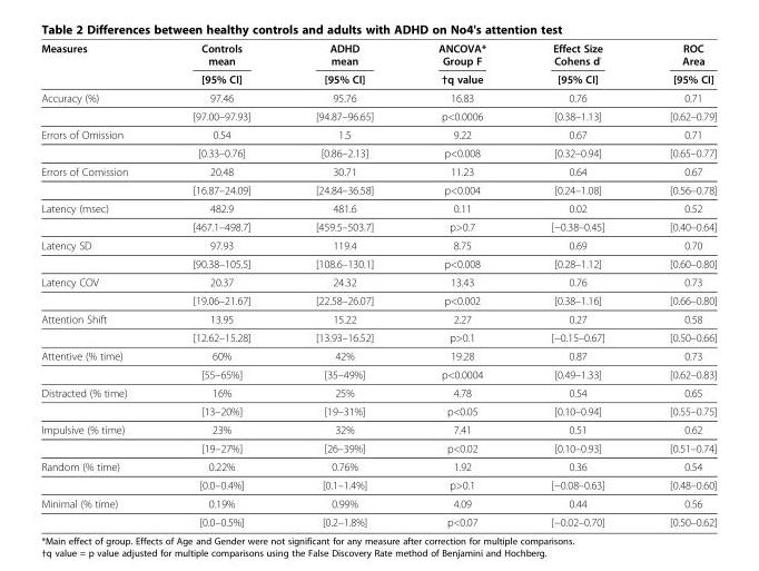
<table><thead><tr><td rowspan="2">Measures</td><td rowspan="2">Controls mean [95% CI]</td><td rowspan="2">ADHD mean [95% CI]</td><td rowspan="2">ANCOVA* Group F †q value</td><td rowspan="2">Effect Size Cohens d&#x27; [95% CI]</td><td rowspan="2">ROC Area [95% CI]</td></tr><tr></tr></thead><tbody><tr><td rowspan="2">Accuracy (%)</td><td>97.46</td><td>95.76</td><td>16.83</td><td>0.76</td><td>0.71</td></tr><tr><td>[97.00–97.93]</td><td>[94.87–96.65]</td><td>p&lt;0.0006</td><td>[0.38–1.13]</td><td>[0.62–0.79]</td></tr><tr><td rowspan="2">Errors of Omission</td><td>0.54</td><td>1.5</td><td>9.22</td><td>0.67</td><td>0.71</td></tr><tr><td>[0.33–0.76]</td><td>[0.86–2.13]</td><td>p&lt;0.008</td><td>[0.32–0.94]</td><td>[0.65–0.77]</td></tr><tr><td rowspan="2">Errors of Comission</td><td>20.48</td><td>30.71</td><td>11.23</td><td>0.64</td><td>0.67</td></tr><tr><td>[16.87–24.09]</td><td>[24.84–36.58]</td><td>p&lt;0.004</td><td>[0.24–1.08]</td><td>[0.56–0.78]</td></tr><tr><td rowspan="2">Latency (msec)</td><td>482.9</td><td>481.6</td><td>0.11</td><td>0.02</td><td>0.52</td></tr><tr><td>[467.1–498.7]</td><td>[459.5–503.7]</td><td>p&gt;0.7</td><td>[−0.38–0.45]</td><td>[0.40–0.64]</td></tr><tr><td rowspan="2">Latency SD</td><td>97.93</td><td>119.4</td><td>8.75</td><td>0.69</td><td>0.70</td></tr><tr><td>[90.38–105.5]</td><td>[108.6–130.1]</td><td>p&lt;0.008</td><td>[0.28–1.12]</td><td>[0.60–0.80]</td></tr><tr><td rowspan="2">Latency COV</td><td>20.37</td><td>24.32</td><td>13.43</td><td>0.76</td><td>0.73</td></tr><tr><td>[19.06–21.67]</td><td>[22.58–26.07]</td><td>p&lt;0.002</td><td>[0.38–1.16]</td><td>[0.66–0.80]</td></tr><tr><td rowspan="2">Attention Shift</td><td>13.95</td><td>15.22</td><td>2.27</td><td>0.27</td><td>0.58</td></tr><tr><td>[12.62–15.28]</td><td>[13.93–16.52]</td><td>p&gt;0.1</td><td>[−0.15–0.67]</td><td>[0.50–0.66]</td></tr><tr><td rowspan="2">Attentive (% time)</td><td>60%</td><td>42%</td><td>19.28</td><td>0.87</td><td>0.73</td></tr><tr><td>[55–65%]</td><td>[35–49%]</td><td>p&lt;0.0004</td><td>[0.49–1.33]</td><td>[0.62–0.83]</td></tr><tr><td rowspan="2">Distracted (% time)</td><td>16%</td><td>25%</td><td>4.78</td><td>0.54</td><td>0.65</td></tr><tr><td>[13–20%]</td><td>[19–31%]</td><td>p&lt;0.05</td><td>[0.10–0.94]</td><td>[0.55–0.75]</td></tr><tr><td rowspan="2">Impulsive (% time)</td><td>23%</td><td>32%</td><td>7.41</td><td>0.51</td><td>0.62</td></tr><tr><td>[19–27%]</td><td>[26–39%]</td><td>p&lt;0.02</td><td>[0.10–0.93]</td><td>[0.51–0.74]</td></tr><tr><td rowspan="2">Random (% time)</td><td>0.22%</td><td>0.76%</td><td>1.92</td><td>0.36</td><td>0.54</td></tr><tr><td>[0.0–0.4%]</td><td>[0.1–1.4%]</td><td>p&gt;0.1</td><td>[−0.08–0.63]</td><td>[0.48–0.60]</td></tr><tr><td rowspan="2">Minimal (% time)</td><td>0.19%</td><td>0.99%</td><td>4.09</td><td>0.44</td><td>0.56</td></tr><tr><td>[0.0–0.5%]</td><td>[0.2–1.8%]</td><td>p&lt;0.07</td><td>[−0.02–0.70]</td><td>[0.50–0.62]</td></tr></tbody></table>